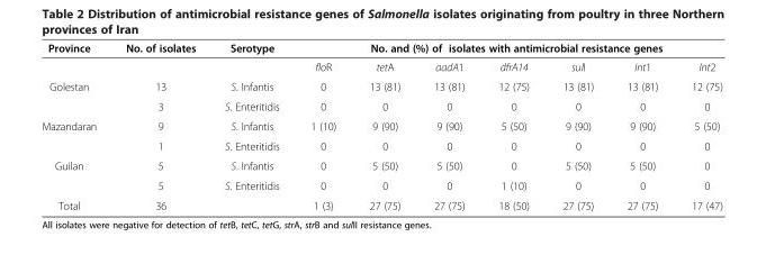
<table><thead><tr><td rowspan="2">Province</td><td rowspan="2">No. of isolates</td><td rowspan="2">Serotype</td><td colspan="7">No. and (%) of isolates with antimicrobial resistance genes</td></tr><tr><td>floR</td><td>tetA</td><td>aadA1</td><td>dfrA14</td><td>sulI</td><td>Int1</td><td>Int2</td></tr></thead><tbody><tr><td rowspan="2">Golestan</td><td>13</td><td>S. Infantis</td><td>0</td><td>13 (81)</td><td>13 (81)</td><td>12 (75)</td><td>13 (81)</td><td>13 (81)</td><td>12 (75)</td></tr><tr><td>3</td><td>S. Enteritidis</td><td>0</td><td>0</td><td>0</td><td>0</td><td>0</td><td>0</td><td>0</td></tr><tr><td rowspan="2">Mazandaran</td><td>9</td><td>S. Infantis</td><td>1 (10)</td><td>9 (90)</td><td>9 (90)</td><td>5 (50)</td><td>9 (90)</td><td>9 (90)</td><td>5 (50)</td></tr><tr><td>1</td><td>S. Enteritidis</td><td>0</td><td>0</td><td>0</td><td>0</td><td>0</td><td>0</td><td>0</td></tr><tr><td rowspan="2">Guilan</td><td>5</td><td>S. Infantis</td><td>0</td><td>5 (50)</td><td>5 (50)</td><td>0</td><td>5 (50)</td><td>5 (50)</td><td>0</td></tr><tr><td>5</td><td>S. Enteritidis</td><td>0</td><td>0</td><td>0</td><td>1 (10)</td><td>0</td><td>0</td><td>0</td></tr><tr><td>Total</td><td>36</td><td></td><td>1 (3)</td><td>27 (75)</td><td>27 (75)</td><td>18 (50)</td><td>27 (75)</td><td>27 (75)</td><td>17 (47)</td></tr></tbody></table>